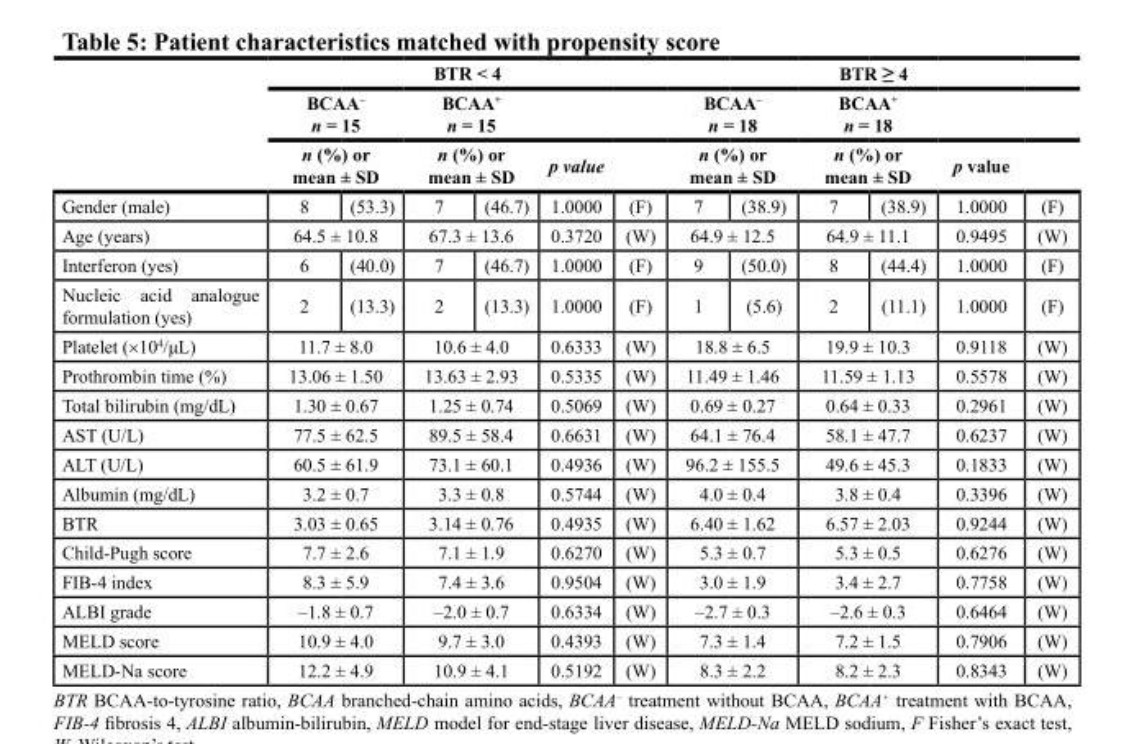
<table><thead><tr><td rowspan="4">Gender (male)</td><td colspan="6">BTR &lt; 4</td><td colspan="6">BTR ≥ 4</td></tr><tr><td rowspan="2" colspan="2">BCAA<sup>–</sup> n = 15 n (%) or mean ± SD</td><td rowspan="2" colspan="2">BCAA<sup>+</sup> n = 15 n (%) or mean ± SD</td><td rowspan="3">p value 1.0000</td><td rowspan="3">(F)</td><td rowspan="2" colspan="2">BCAA<sup>–</sup> n = 18 n (%) or mean ± SD</td><td rowspan="2" colspan="2">BCAA<sup>+</sup> n = 18 n (%) or mean ± SD</td><td rowspan="3">p value 1.0000</td><td rowspan="3">(F)</td></tr><tr></tr><tr><td>8</td><td>(53.3)</td><td>7</td><td>(46.7)</td><td>7</td><td>(38.9)</td><td>7</td><td>(38.9)</td></tr></thead><tbody><tr><td>Age (years)</td><td colspan="2">64.5 ± 10.8</td><td colspan="2">67.3 ± 13.6</td><td>0.3720</td><td>(W)</td><td colspan="2">64.9 ± 12.5</td><td colspan="2">64.9 ± 11.1</td><td>0.9495</td><td>(W)</td></tr><tr><td>Interferon (yes)</td><td>6</td><td>(40.0)</td><td>7</td><td>(46.7)</td><td>1.0000</td><td>(F)</td><td>9</td><td>(50.0)</td><td>8</td><td>(44.4)</td><td>1.0000</td><td>(F)</td></tr><tr><td>Nucleic acid analogue formulation (yes)</td><td>2</td><td>(13.3)</td><td>2</td><td>(13.3)</td><td>1.0000</td><td>(F)</td><td>1</td><td>(5.6)</td><td>2</td><td>(11.1)</td><td>1.0000</td><td>(F)</td></tr><tr><td>Platelet (×10<sup>4</sup>/μL)</td><td colspan="2">11.7 ± 8.0</td><td colspan="2">10.6 ± 4.0</td><td>0.6333</td><td>(W)</td><td colspan="2">18.8 ± 6.5</td><td colspan="2">19.9 ± 10.3</td><td>0.9118</td><td>(W)</td></tr><tr><td>Prothrombin time (%)</td><td colspan="2">13.06 ± 1.50</td><td colspan="2">13.63 ± 2.93</td><td>0.5335</td><td>(W)</td><td colspan="2">11.49 ± 1.46</td><td colspan="2">11.59 ± 1.13</td><td>0.5578</td><td>(W)</td></tr><tr><td>Total bilirubin (mg/dL)</td><td colspan="2">1.30 ± 0.67</td><td colspan="2">1.25 ± 0.74</td><td>0.5069</td><td>(W)</td><td colspan="2">0.69 ± 0.27</td><td colspan="2">0.64 ± 0.33</td><td>0.2961</td><td>(W)</td></tr><tr><td>AST (U/L)</td><td colspan="2">77.5 ± 62.5</td><td colspan="2">89.5 ± 58.4</td><td>0.6631</td><td>(W)</td><td colspan="2">64.1 ± 76.4</td><td colspan="2">58.1 ± 47.7</td><td>0.6237</td><td>(W)</td></tr><tr><td>ALT (U/L)</td><td colspan="2">60.5 ± 61.9</td><td colspan="2">73.1 ± 60.1</td><td>0.4936</td><td>(W)</td><td colspan="2">96.2 ± 155.5</td><td colspan="2">49.6 ± 45.3</td><td>0.1833</td><td>(W)</td></tr><tr><td>Albumin (mg/dL)</td><td colspan="2">3.2 ± 0.7</td><td colspan="2">3.3 ± 0.8</td><td>0.5744</td><td>(W)</td><td colspan="2">4.0 ± 0.4</td><td colspan="2">3.8 ± 0.4</td><td>0.3396</td><td>(W)</td></tr><tr><td>BTR</td><td colspan="2">3.03 ± 0.65</td><td colspan="2">3.14 ± 0.76</td><td>0.4935</td><td>(W)</td><td colspan="2">6.40 ± 1.62</td><td colspan="2">6.57 ± 2.03</td><td>0.9244</td><td>(W)</td></tr><tr><td>Child-Pugh score</td><td colspan="2">7.7 ± 2.6</td><td colspan="2">7.1 ± 1.9</td><td>0.6270</td><td>(W)</td><td colspan="2">5.3 ± 0.7</td><td colspan="2">5.3 ± 0.5</td><td>0.6276</td><td>(W)</td></tr><tr><td>FIB-4 index</td><td colspan="2">8.3 ± 5.9</td><td colspan="2">7.4 ± 3.6</td><td>0.9504</td><td>(W)</td><td colspan="2">3.0 ± 1.9</td><td colspan="2">3.4 ± 2.7</td><td>0.7758</td><td>(W)</td></tr><tr><td>ALBI grade</td><td colspan="2">–1.8 ± 0.7</td><td colspan="2">–2.0 ± 0.7</td><td>0.6334</td><td>(W)</td><td colspan="2">–2.7 ± 0.3</td><td colspan="2">–2.6 ± 0.3</td><td>0.6464</td><td>(W)</td></tr><tr><td>MELD score</td><td colspan="2">10.9 ± 4.0</td><td colspan="2">9.7 ± 3.0</td><td>0.4393</td><td>(W)</td><td colspan="2">7.3 ± 1.4</td><td colspan="2">7.2 ± 1.5</td><td>0.7906</td><td>(W)</td></tr><tr><td>MELD-Na score</td><td colspan="2">12.2 ± 4.9</td><td colspan="2">10.9 ± 4.1</td><td>0.5192</td><td>(W)</td><td colspan="2">8.3 ± 2.2</td><td colspan="2">8.2 ± 2.3</td><td>0.8343</td><td>(W)</td></tr></tbody></table>